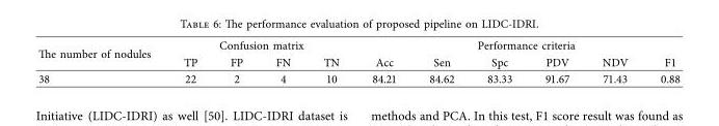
<table><thead><tr><td rowspan="2">Te number of nodules</td><td colspan="4">Confusion matrix</td><td colspan="6">Performance criteria</td></tr><tr><td>TP</td><td>FP</td><td>FN</td><td>TN</td><td>Acc</td><td>Sen</td><td>Spc</td><td>PDV</td><td>NDV</td><td>F1</td></tr></thead><tbody><tr><td>38</td><td>22</td><td>2</td><td>4</td><td>10</td><td>84.21</td><td>84.62</td><td>83.33</td><td>91.67</td><td>71.43</td><td>0.88</td></tr></tbody></table>